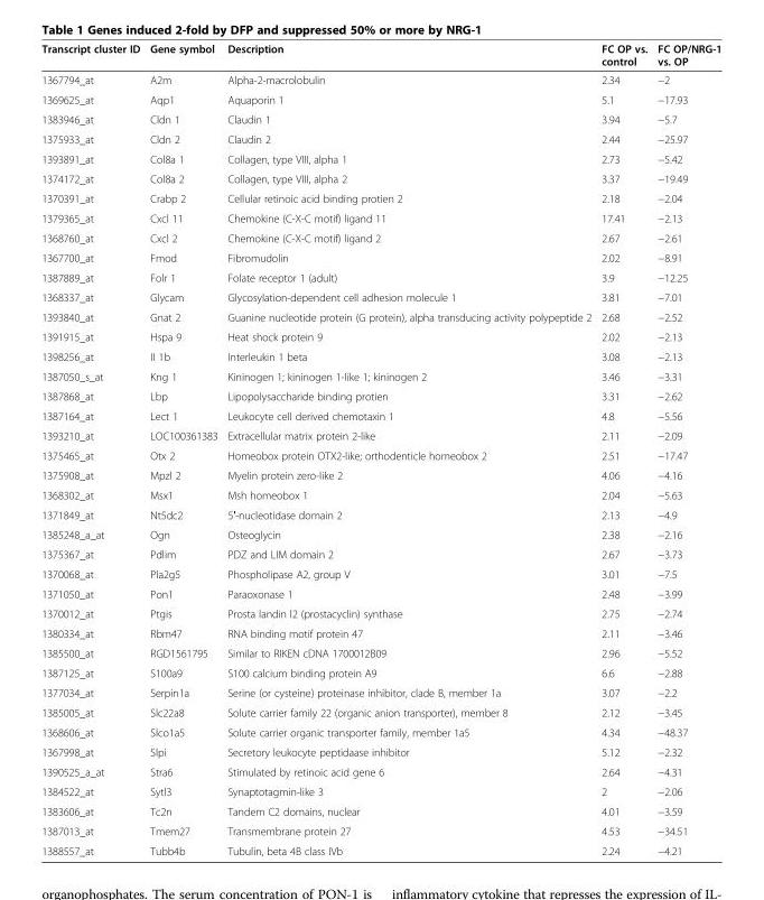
<table><thead><tr><td>Transcript cluster ID</td><td>Gene symbol</td><td>Description</td><td>FC OP vs. control</td><td>FC OP/NRG-1 vs. OP</td></tr></thead><tbody><tr><td>1367794_at</td><td>A2m</td><td>Alpha-2-macrolobulin</td><td>2.34</td><td>−2</td></tr><tr><td>1369625_at</td><td>Aqp1</td><td>Aquaporin 1</td><td>5.1</td><td>−17.93</td></tr><tr><td>1383946_at</td><td>Cldn 1</td><td>Claudin 1</td><td>3.94</td><td>−5.7</td></tr><tr><td>1375933_at</td><td>Cldn 2</td><td>Claudin 2</td><td>2.44</td><td>−25.97</td></tr><tr><td>1393891_at</td><td>Col8a 1</td><td>Collagen, type VIII, alpha 1</td><td>2.73</td><td>−5.42</td></tr><tr><td>1374172_at</td><td>Col8a 2</td><td>Collagen, type VIII, alpha 2</td><td>3.37</td><td>−19.49</td></tr><tr><td>1370391_at</td><td>Crabp 2</td><td>Cellular retinoic acid binding protien 2</td><td>2.18</td><td>−2.04</td></tr><tr><td>1379365_at</td><td>Cxcl 11</td><td>Chemokine (C-X-C motif) ligand 11</td><td>17.41</td><td>−2.13</td></tr><tr><td>1368760_at</td><td>Cxcl 2</td><td>Chemokine (C-X-C motif) ligand 2</td><td>2.67</td><td>−2.61</td></tr><tr><td>1367700_at</td><td>Fmod</td><td>Fibromudolin</td><td>2.02</td><td>−8.91</td></tr><tr><td>1387889_at</td><td>Folr 1</td><td>Folate receptor 1 (adult)</td><td>3.9</td><td>−12.25</td></tr><tr><td>1368337_at</td><td>Glycam</td><td>Glycosylation-dependent cell adhesion molecule 1</td><td>3.81</td><td>−7.01</td></tr><tr><td>1393840_at</td><td>Gnat 2</td><td>Guanine nucleotide protein (G protein), alpha transducing activity polypeptide 2</td><td>2.68</td><td>−2.52</td></tr><tr><td>1391915_at</td><td>Hspa 9</td><td>Heat shock protein 9</td><td>2.02</td><td>−2.13</td></tr><tr><td>1398256_at</td><td>II 1b</td><td>Interleukin 1 beta</td><td>3.08</td><td>−2.13</td></tr><tr><td>1387050_s_at</td><td>Kng 1</td><td>Kininogen 1; kininogen 1-like 1; kininogen 2</td><td>3.46</td><td>−3.31</td></tr><tr><td>1387868_at</td><td>Lbp</td><td>Lipopolysaccharide binding protien</td><td>3.31</td><td>−2.62</td></tr><tr><td>1387164_at</td><td>Lect 1</td><td>Leukocyte cell derived chemotaxin 1</td><td>4.8</td><td>−5.56</td></tr><tr><td>1393210_at</td><td>LOC100361383</td><td>Extracellular matrix protein 2-like</td><td>2.11</td><td>−2.09</td></tr><tr><td>1375465_at</td><td>Otx 2</td><td>Homeobox protein OTX2-like; orthodenticle homeobox 2</td><td>2.51</td><td>−17.47</td></tr><tr><td>1375908_at</td><td>Mpzl 2</td><td>Myelin protein zero-like 2</td><td>4.06</td><td>−4.16</td></tr><tr><td>1368302_at</td><td>Msx1</td><td>Msh homeobox 1</td><td>2.04</td><td>−5.63</td></tr><tr><td>1371849_at</td><td>Nt5dc2</td><td>5′-nucleotidase domain 2</td><td>2.13</td><td>−4.9</td></tr><tr><td>1385248_a_at</td><td>Ogn</td><td>Osteoglycin</td><td>2.38</td><td>−2.16</td></tr><tr><td>1375367_at</td><td>Pdlim</td><td>PDZ and LIM domain 2</td><td>2.67</td><td>−3.73</td></tr><tr><td>1370068_at</td><td>Pla2g5</td><td>Phospholipase A2, group V</td><td>3.01</td><td>−7.5</td></tr><tr><td>1371050_at</td><td>Pon1</td><td>Paraoxonase 1</td><td>2.48</td><td>−3.99</td></tr><tr><td>1370012_at</td><td>Ptgis</td><td>Prosta landin l2 (prostacyclin) synthase</td><td>2.75</td><td>−2.74</td></tr><tr><td>1380334_at</td><td>Rbm47</td><td>RNA binding motif protein 47</td><td>2.11</td><td>−3.46</td></tr><tr><td>1385500_at</td><td>RGD1561795</td><td>Similar to RIKEN cDNA 1700012B09</td><td>2.96</td><td>−5.52</td></tr><tr><td>1387125_at</td><td>S100a9</td><td>S100 calcium binding protein A9</td><td>6.6</td><td>−2.88</td></tr><tr><td>1377034_at</td><td>Serpin1a</td><td>Serine (or cysteine) proteinase inhibitor, clade B, member 1a</td><td>3.07</td><td>−2.2</td></tr><tr><td>1385005_at</td><td>Slc22a8</td><td>Solute carrier family 22 (organic anion transporter), member 8</td><td>2.12</td><td>−3.45</td></tr><tr><td>1368606_at</td><td>Slco1a5</td><td>Solute carrier organic transporter family, member 1a5</td><td>4.34</td><td>−48.37</td></tr><tr><td>1367998_at</td><td>Slpi</td><td>Secretory leukocyte peptidaase inhibitor</td><td>5.12</td><td>−2.32</td></tr><tr><td>1390525_a_at</td><td>Stra6</td><td>Stimulated by retinoic acid gene 6</td><td>2.64</td><td>−4.31</td></tr><tr><td>1384522_at</td><td>Sytl3</td><td>Synaptotagmin-like 3</td><td>2</td><td>−2.06</td></tr><tr><td>1383606_at</td><td>Tc2n</td><td>Tandem C2 domains, nuclear</td><td>4.01</td><td>−3.59</td></tr><tr><td>1387013_at</td><td>Tmem27</td><td>Transmembrane protein 27</td><td>4.53</td><td>−34.51</td></tr><tr><td>1388557_at</td><td>Tubb4b</td><td>Tubulin, beta 4B class IVb</td><td>2.24</td><td>−4.21</td></tr></tbody></table>